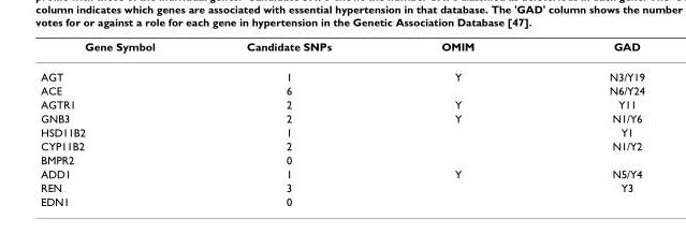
<table><thead><tr><td>Gene Symbol</td><td>Candidate SNPs</td><td>OMIM</td><td>GAD</td></tr></thead><tbody><tr><td>AGT</td><td>1</td><td>Y</td><td>N3/Y19</td></tr><tr><td>ACE</td><td>6</td><td></td><td>N6/Y24</td></tr><tr><td>AGTR1</td><td>2</td><td>Y</td><td>Y11</td></tr><tr><td>GNB3</td><td>2</td><td>Y</td><td>N1/Y6</td></tr><tr><td>HSD11B2</td><td>1</td><td></td><td>Y1</td></tr><tr><td>CYP11B2</td><td>2</td><td></td><td>N1/Y2</td></tr><tr><td>BMPR2</td><td>0</td><td></td><td></td></tr><tr><td>ADD1</td><td>1</td><td>Y</td><td>N5/Y4</td></tr><tr><td>REN</td><td>3</td><td></td><td>Y3</td></tr><tr><td>EDN1</td><td>0</td><td></td><td></td></tr></tbody></table>